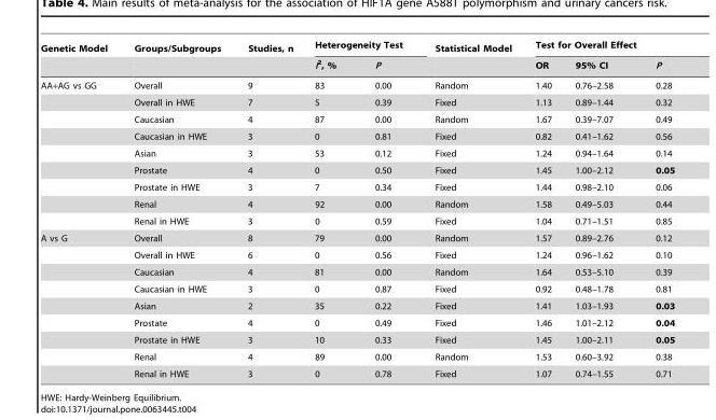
<table><thead><tr><td rowspan="2">Genetic Model</td><td rowspan="2">Groups/Subgroups</td><td rowspan="2">Studies, n</td><td colspan="2">Heterogeneity Test</td><td rowspan="2">Statistical Model</td><td colspan="3">Test for Overall Effect</td></tr><tr><td>I<sup>2</sup>, %</td><td>P</td><td>OR</td><td>95% CI</td><td>P</td></tr></thead><tbody><tr><td rowspan="9">AA+AG vs GG</td><td>Overall</td><td>9</td><td>83</td><td>0.00</td><td>Random</td><td>1.40</td><td>0.76–2.58</td><td>0.28</td></tr><tr><td>Overall in HWE</td><td>7</td><td>5</td><td>0.39</td><td>Fixed</td><td>1.13</td><td>0.89–1.44</td><td>0.32</td></tr><tr><td>Caucasian</td><td>4</td><td>87</td><td>0.00</td><td>Random</td><td>1.67</td><td>0.39–7.07</td><td>0.49</td></tr><tr><td>Caucasian in HWE</td><td>3</td><td>0</td><td>0.81</td><td>Fixed</td><td>0.82</td><td>0.41–1.62</td><td>0.56</td></tr><tr><td>Asian</td><td>3</td><td>53</td><td>0.12</td><td>Fixed</td><td>1.24</td><td>0.94–1.64</td><td>0.14</td></tr><tr><td>Prostate</td><td>4</td><td>0</td><td>0.50</td><td>Fixed</td><td>1.45</td><td>1.00–2.12</td><td>0.05</td></tr><tr><td>Prostate in HWE</td><td>3</td><td>7</td><td>0.34</td><td>Fixed</td><td>1.44</td><td>0.98–2.10</td><td>0.06</td></tr><tr><td>Renal</td><td>4</td><td>92</td><td>0.00</td><td>Random</td><td>1.58</td><td>0.49–5.03</td><td>0.44</td></tr><tr><td>Renal in HWE</td><td>3</td><td>0</td><td>0.59</td><td>Fixed</td><td>1.04</td><td>0.71–1.51</td><td>0.85</td></tr><tr><td rowspan="9">A vs G</td><td>Overall</td><td>8</td><td>79</td><td>0.00</td><td>Random</td><td>1.57</td><td>0.89–2.76</td><td>0.12</td></tr><tr><td>Overall in HWE</td><td>6</td><td>0</td><td>0.56</td><td>Fixed</td><td>1.24</td><td>0.96–1.62</td><td>0.10</td></tr><tr><td>Caucasian</td><td>4</td><td>81</td><td>0.00</td><td>Random</td><td>1.64</td><td>0.53–5.10</td><td>0.39</td></tr><tr><td>Caucasian in HWE</td><td>3</td><td>0</td><td>0.87</td><td>Fixed</td><td>0.92</td><td>0.48–1.78</td><td>0.81</td></tr><tr><td>Asian</td><td>2</td><td>35</td><td>0.22</td><td>Fixed</td><td>1.41</td><td>1.03–1.93</td><td>0.03</td></tr><tr><td>Prostate</td><td>4</td><td>0</td><td>0.49</td><td>Fixed</td><td>1.46</td><td>1.01–2.12</td><td>0.04</td></tr><tr><td>Prostate in HWE</td><td>3</td><td>10</td><td>0.33</td><td>Fixed</td><td>1.45</td><td>1.00–2.11</td><td>0.05</td></tr><tr><td>Renal</td><td>4</td><td>89</td><td>0.00</td><td>Random</td><td>1.53</td><td>0.60–3.92</td><td>0.38</td></tr><tr><td>Renal in HWE</td><td>3</td><td>0</td><td>0.78</td><td>Fixed</td><td>1.07</td><td>0.74–1.55</td><td>0.71</td></tr></tbody></table>